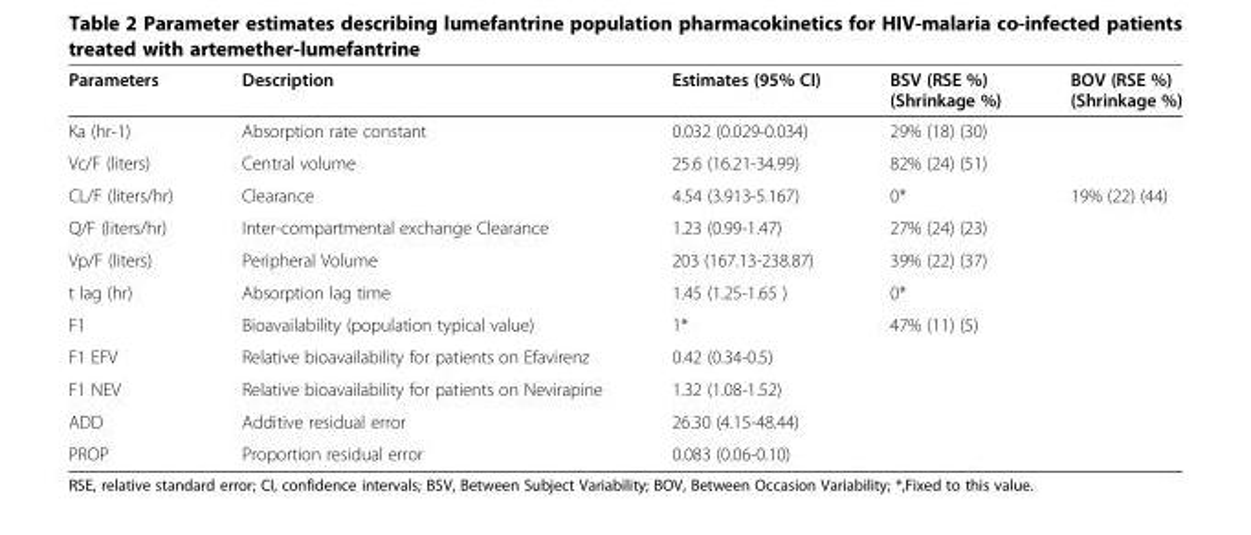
<table><thead><tr><td>Parameters</td><td>Description</td><td>Estimates (95% CI)</td><td>BSV (RSE %) (Shrinkage %)</td><td>BOV (RSE %) (Shrinkage %)</td></tr></thead><tbody><tr><td>Ka (hr-1)</td><td>Absorption rate constant</td><td>0.032 (0.029-0.034)</td><td>29% (18) (30)</td><td></td></tr><tr><td>Vc/F (liters)</td><td>Central volume</td><td>25.6 (16.21-34.99)</td><td>82% (24) (51)</td><td></td></tr><tr><td>CL/F (liters/hr)</td><td>Clearance</td><td>4.54 (3.913-5.167)</td><td>0*</td><td>19% (22) (44)</td></tr><tr><td>Q/F (liters/hr)</td><td>Inter-compartmental exchange Clearance</td><td>1.23 (0.99-1.47)</td><td>27% (24) (23)</td><td></td></tr><tr><td>Vp/F (liters)</td><td>Peripheral Volume</td><td>203 (167.13-238.87)</td><td>39% (22) (37)</td><td></td></tr><tr><td>t lag (hr)</td><td>Absorption lag time</td><td>1.45 (1.25-1.65 )</td><td>0*</td><td></td></tr><tr><td>F1</td><td>Bioavailability (population typical value)</td><td>1*</td><td>47% (11) (5)</td><td></td></tr><tr><td>F1 EFV</td><td>Relative bioavailability for patients on Efavirenz</td><td>0.42 (0.34-0.5)</td><td></td><td></td></tr><tr><td>F1 NEV</td><td>Relative bioavailability for patients on Nevirapine</td><td>1.32 (1.08-1.52)</td><td></td><td></td></tr><tr><td>ADD</td><td>Additive residual error</td><td>26.30 (4.15-48.44)</td><td></td><td></td></tr><tr><td>PROP</td><td>Proportion residual error</td><td>0.083 (0.06-0.10)</td><td></td><td></td></tr></tbody></table>